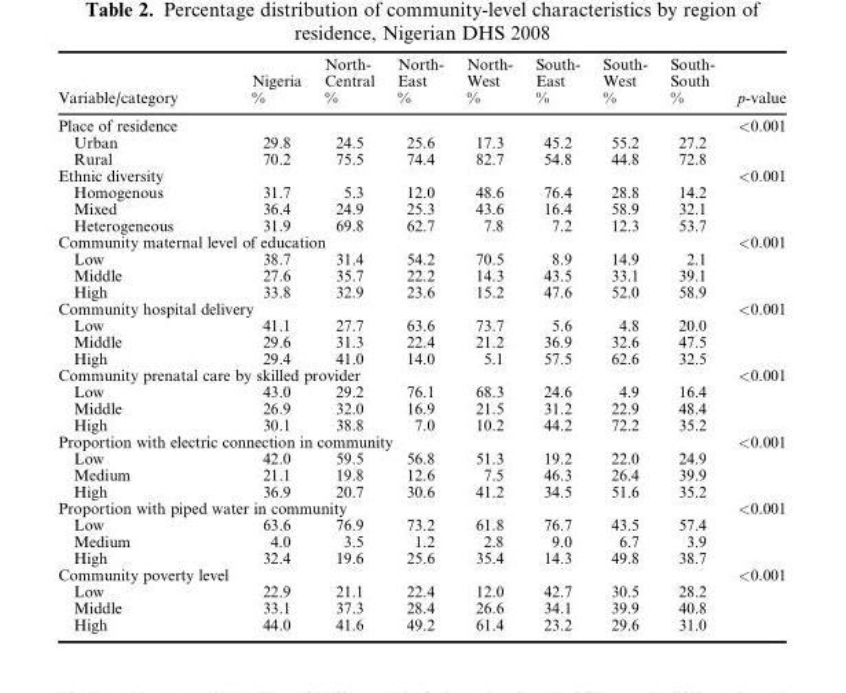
<table><thead><tr><td>Variable/category</td><td>Nigeria %</td><td>North- Central %</td><td>North- East %</td><td>North- West %</td><td>South- East %</td><td>South- West %</td><td>South- South %</td><td>p-value</td></tr></thead><tbody><tr><td>Place of residence</td><td></td><td></td><td></td><td></td><td></td><td></td><td></td><td>&lt;0.001</td></tr><tr><td>Urban</td><td>29.8</td><td>24.5</td><td>25.6</td><td>17.3</td><td>45.2</td><td>55.2</td><td>27.2</td><td></td></tr><tr><td>Rural</td><td>70.2</td><td>75.5</td><td>74.4</td><td>82.7</td><td>54.8</td><td>44.8</td><td>72.8</td><td></td></tr><tr><td>Ethnic diversity</td><td></td><td></td><td></td><td></td><td></td><td></td><td></td><td>&lt;0.001</td></tr><tr><td>Homogenous</td><td>31.7</td><td>5.3</td><td>12.0</td><td>48.6</td><td>76.4</td><td>28.8</td><td>14.2</td><td></td></tr><tr><td>Mixed</td><td>36.4</td><td>24.9</td><td>25.3</td><td>43.6</td><td>16.4</td><td>58.9</td><td>32.1</td><td></td></tr><tr><td>Heterogeneous</td><td>31.9</td><td>69.8</td><td>62.7</td><td>7.8</td><td>7.2</td><td>12.3</td><td>53.7</td><td></td></tr><tr><td colspan="8">Community maternal level of education</td><td>&lt;0.001</td></tr><tr><td>Low</td><td>38.7</td><td>31.4</td><td>54.2</td><td>70.5</td><td>8.9</td><td>14.9</td><td>2.1</td><td></td></tr><tr><td>Middle</td><td>27.6</td><td>35.7</td><td>22.2</td><td>14.3</td><td>43.5</td><td>33.1</td><td>39.1</td><td></td></tr><tr><td>High</td><td>33.8</td><td>32.9</td><td>23.6</td><td>15.2</td><td>47.6</td><td>52.0</td><td>58.9</td><td></td></tr><tr><td colspan="8">Community hospital delivery</td><td>&lt;0.001</td></tr><tr><td>Low</td><td>41.1</td><td>27.7</td><td>63.6</td><td>73.7</td><td>5.6</td><td>4.8</td><td>20.0</td><td></td></tr><tr><td>Middle</td><td>29.6</td><td>31.3</td><td>22.4</td><td>21.2</td><td>36.9</td><td>32.6</td><td>47.5</td><td></td></tr><tr><td>High</td><td>29.4</td><td>41.0</td><td>14.0</td><td>5.1</td><td>57.5</td><td>62.6</td><td>32.5</td><td></td></tr><tr><td colspan="8">Community prenatal care by skilled provider</td><td>&lt;0.001</td></tr><tr><td>Low</td><td>43.0</td><td>29.2</td><td>76.1</td><td>68.3</td><td>24.6</td><td>4.9</td><td>16.4</td><td></td></tr><tr><td>Middle</td><td>26.9</td><td>32.0</td><td>16.9</td><td>21.5</td><td>31.2</td><td>22.9</td><td>48.4</td><td></td></tr><tr><td>High</td><td>30.1</td><td>38.8</td><td>7.0</td><td>10.2</td><td>44.2</td><td>72.2</td><td>35.2</td><td></td></tr><tr><td colspan="8">Proportion with electric connection in community</td><td>&lt;0.001</td></tr><tr><td>Low</td><td>42.0</td><td>59.5</td><td>56.8</td><td>51.3</td><td>19.2</td><td>22.0</td><td>24.9</td><td></td></tr><tr><td>Medium</td><td>21.1</td><td>19.8</td><td>12.6</td><td>7.5</td><td>46.3</td><td>26.4</td><td>39.9</td><td></td></tr><tr><td>High</td><td>36.9</td><td>20.7</td><td>30.6</td><td>41.2</td><td>34.5</td><td>51.6</td><td>35.2</td><td></td></tr><tr><td colspan="8">Proportion with piped water in community</td><td>&lt;0.001</td></tr><tr><td>Low</td><td>63.6</td><td>76.9</td><td>73.2</td><td>61.8</td><td>76.7</td><td>43.5</td><td>57.4</td><td></td></tr><tr><td>Medium</td><td>4.0</td><td>3.5</td><td>1.2</td><td>2.8</td><td>9.0</td><td>6.7</td><td>3.9</td><td></td></tr><tr><td>High</td><td>32.4</td><td>19.6</td><td>25.6</td><td>35.4</td><td>14.3</td><td>49.8</td><td>38.7</td><td></td></tr><tr><td>Community poverty level</td><td></td><td></td><td></td><td></td><td></td><td></td><td></td><td>&lt;0.001</td></tr><tr><td>Low</td><td>22.9</td><td>21.1</td><td>22.4</td><td>12.0</td><td>42.7</td><td>30.5</td><td>28.2</td><td></td></tr><tr><td>Middle</td><td>33.1</td><td>37.3</td><td>28.4</td><td>26.6</td><td>34.1</td><td>39.9</td><td>40.8</td><td></td></tr><tr><td>High</td><td>44.0</td><td>41.6</td><td>49.2</td><td>61.4</td><td>23.2</td><td>29.6</td><td>31.0</td><td></td></tr></tbody></table>